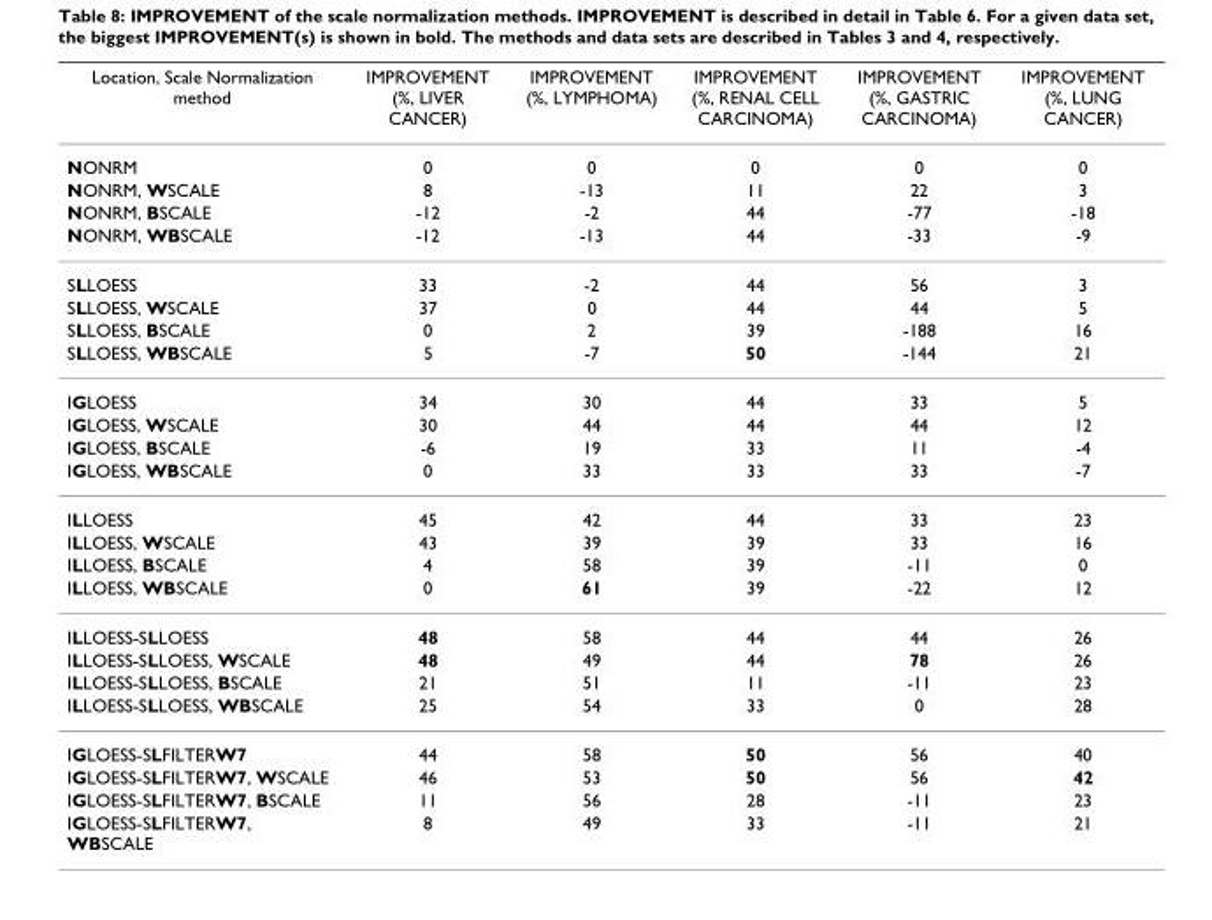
<table><thead><tr><td>Location, Scale Normalization method</td><td>IMPROVEMENT (%, LIVER CANCER)</td><td>IMPROVEMENT (%, LYMPHOMA)</td><td>IMPROVEMENT (%, RENAL CELL CARCINOMA)</td><td>IMPROVEMENT (%, GASTRIC CARCINOMA)</td><td>IMPROVEMENT (%, LUNG CANCER)</td></tr></thead><tbody><tr><td>NONRM</td><td>0</td><td>0</td><td>0</td><td>0</td><td>0</td></tr><tr><td>NONRM, WSCALE</td><td>8</td><td>-13</td><td>11</td><td>22</td><td>3</td></tr><tr><td>NONRM, BSCALE</td><td>-12</td><td>-2</td><td>44</td><td>-77</td><td>-18</td></tr><tr><td>NONRM, WBSCALE</td><td>-12</td><td>-13</td><td>44</td><td>-33</td><td>-9</td></tr><tr><td>SLLOESS</td><td>33</td><td>-2</td><td>44</td><td>56</td><td>3</td></tr><tr><td>SLLOESS, WSCALE</td><td>37</td><td>0</td><td>44</td><td>44</td><td>5</td></tr><tr><td>SLLOESS, BSCALE</td><td>0</td><td>2</td><td>39</td><td>-188</td><td>16</td></tr><tr><td>SLLOESS, WBSCALE</td><td>5</td><td>-7</td><td>50</td><td>-144</td><td>21</td></tr><tr><td>IGLOESS</td><td>34</td><td>30</td><td>44</td><td>33</td><td>5</td></tr><tr><td>IGLOESS, WSCALE</td><td>30</td><td>44</td><td>44</td><td>44</td><td>12</td></tr><tr><td>IGLOESS, BSCALE</td><td>-6</td><td>19</td><td>33</td><td>11</td><td>-4</td></tr><tr><td>IGLOESS, WBSCALE</td><td>0</td><td>33</td><td>33</td><td>33</td><td>-7</td></tr><tr><td>ILLOESS</td><td>45</td><td>42</td><td>44</td><td>33</td><td>23</td></tr><tr><td>ILLOESS, WSCALE</td><td>43</td><td>39</td><td>39</td><td>33</td><td>16</td></tr><tr><td>ILLOESS, BSCALE</td><td>4</td><td>58</td><td>39</td><td>-11</td><td>0</td></tr><tr><td>ILLOESS, WBSCALE</td><td>0</td><td>61</td><td>39</td><td>-22</td><td>12</td></tr><tr><td>ILLOESS-SLLOESS</td><td>48</td><td>58</td><td>44</td><td>44</td><td>26</td></tr><tr><td>ILLOESS-SLLOESS, WSCALE</td><td>48</td><td>49</td><td>44</td><td>78</td><td>26</td></tr><tr><td>ILLOESS-SLLOESS, BSCALE</td><td>21</td><td>51</td><td>11</td><td>-11</td><td>23</td></tr><tr><td>ILLOESS-SLLOESS, WBSCALE</td><td>25</td><td>54</td><td>33</td><td>0</td><td>28</td></tr><tr><td>IGLOESS-SLFILTERW7</td><td>44</td><td>58</td><td>50</td><td>56</td><td>40</td></tr><tr><td>IGLOESS-SLFILTERW7, WSCALE</td><td>46</td><td>53</td><td>50</td><td>56</td><td>42</td></tr><tr><td>IGLOESS-SLFILTERW7, BSCALE</td><td>11</td><td>56</td><td>28</td><td>-11</td><td>23</td></tr><tr><td>IGLOESS-SLFILTERW7, WBSCALE</td><td>8</td><td>49</td><td>33</td><td>-11</td><td>21</td></tr></tbody></table>